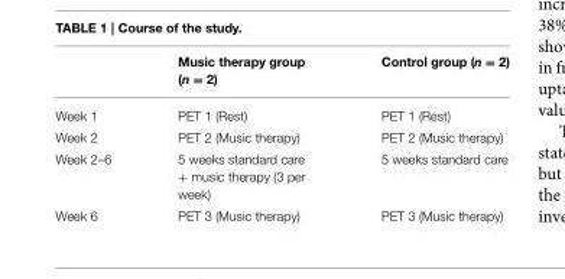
<table><thead><tr><td></td><td>Music therapy group (n = 2)</td><td>Control group (n = 2)</td></tr></thead><tbody><tr><td>Week 1</td><td>PET 1 (Rest)</td><td>PET 1 (Rest)</td></tr><tr><td>Week 2</td><td>PET 2 (Music therapy)</td><td>PET 2 (Music therapy)</td></tr><tr><td>Week 2–6</td><td>5 weeks standard care + music therapy (3 per week)</td><td>5 weeks standard care</td></tr><tr><td>Week 6</td><td>PET 3 (Music therapy)</td><td>PET 3 (Music therapy)</td></tr></tbody></table>